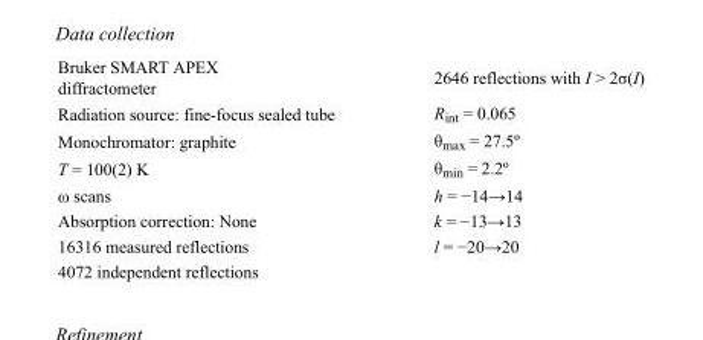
<table><tbody><tr><td>Bruker SMART APEX diffractometer</td><td>2646 reflections with I &gt; 2σ(I)</td></tr><tr><td>Radiation source: fine-focus sealed tube</td><td>R<sub>int</sub> = 0.065</td></tr><tr><td>Monochromator: graphite</td><td>θ<sub>max</sub> = 27.5º</td></tr><tr><td>T = 100(2) K</td><td>θ<sub>min</sub> = 2.2º</td></tr><tr><td>ω scans</td><td>h = −14→14</td></tr><tr><td>Absorption correction: None</td><td>k = −13→13</td></tr><tr><td>16316 measured reflections</td><td>l = −20→20</td></tr><tr><td>4072 independent reflections</td><td></td></tr></tbody></table>